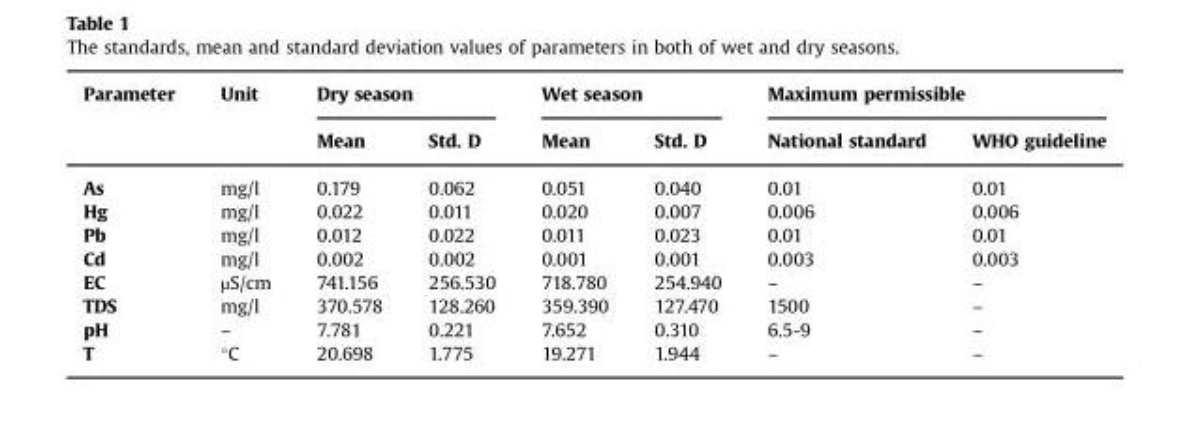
<table><thead><tr><td rowspan="2">Parameter</td><td rowspan="2">Unit</td><td colspan="2">Dry season</td><td colspan="2">Wet season</td><td colspan="2">Maximum permissible</td></tr><tr><td>Mean</td><td>Std. D</td><td>Mean</td><td>Std. D</td><td>National standard</td><td>WHO guideline</td></tr></thead><tbody><tr><td>As</td><td>mg/l</td><td>0.179</td><td>0.062</td><td>0.051</td><td>0.040</td><td>0.01</td><td>0.01</td></tr><tr><td>Hg</td><td>mg/l</td><td>0.022</td><td>0.011</td><td>0.020</td><td>0.007</td><td>0.006</td><td>0.006</td></tr><tr><td>Pb</td><td>mg/l</td><td>0.012</td><td>0.022</td><td>0.011</td><td>0.023</td><td>0.01</td><td>0.01</td></tr><tr><td>Cd</td><td>mg/l</td><td>0.002</td><td>0.002</td><td>0.001</td><td>0.001</td><td>0.003</td><td>0.003</td></tr><tr><td>EC</td><td>µS/cm</td><td>741.156</td><td>256.530</td><td>718.780</td><td>254.940</td><td>–</td><td>–</td></tr><tr><td>TDS</td><td>mg/l</td><td>370.578</td><td>128.260</td><td>359.390</td><td>127.470</td><td>1500</td><td>–</td></tr><tr><td>pH</td><td>–</td><td>7.781</td><td>0.221</td><td>7.652</td><td>0.310</td><td>6.5-9</td><td>–</td></tr><tr><td>T</td><td>°C</td><td>20.698</td><td>1.775</td><td>19.271</td><td>1.944</td><td>–</td><td>–</td></tr></tbody></table>